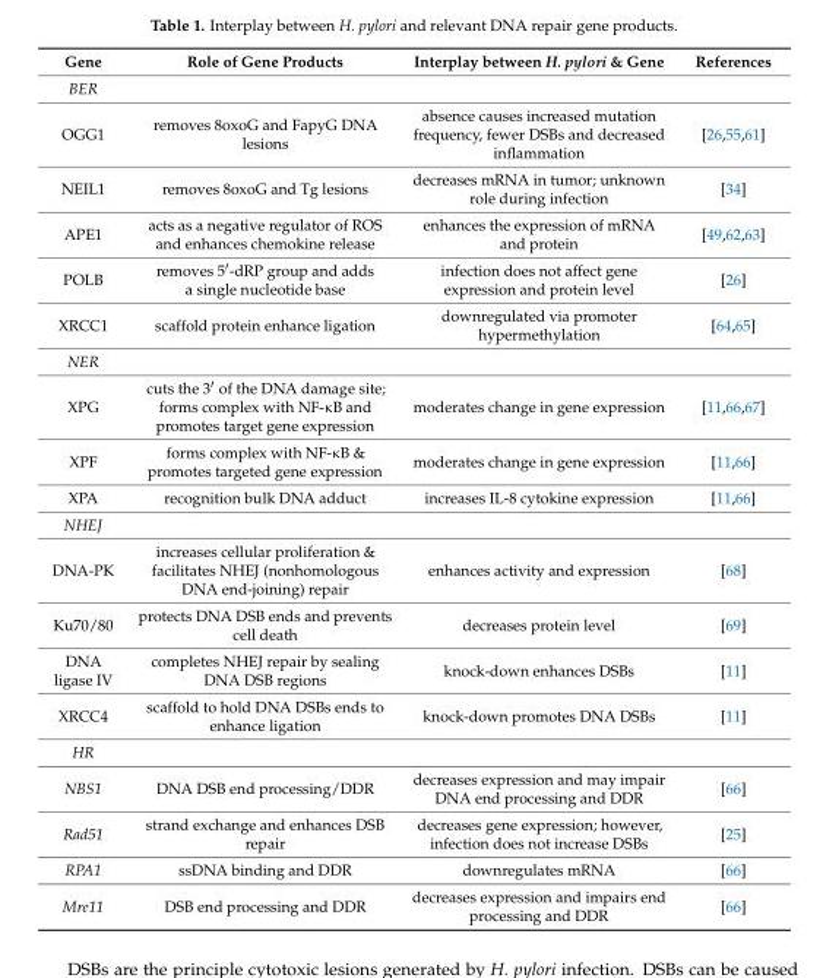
<table><thead><tr><td>Gene</td><td>Role of Gene Products</td><td>Interplay between H. pylori &amp; Gene</td><td>References</td></tr></thead><tbody><tr><td colspan="4">BER</td></tr><tr><td>OGG1</td><td>removes 8oxoG and FapyG DNA lesions</td><td>absence causes increased mutation frequency, fewer DSBs and decreased inflammation</td><td>[26,55,61]</td></tr><tr><td>NEIL1</td><td>removes 8oxoG and Tg lesions</td><td>decreases mRNA in tumor; unknown role during infection</td><td>[34]</td></tr><tr><td>APE1</td><td>acts as a negative regulator of ROS and enhances chemokine release</td><td>enhances the expression of mRNA and protein</td><td>[49,62,63]</td></tr><tr><td>POLB</td><td>removes 5′-dRP group and adds a single nucleotide base</td><td>infection does not affect gene expression and protein level</td><td>[26]</td></tr><tr><td>XRCC1</td><td>scaffold protein enhance ligation</td><td>downregulated via promoter hypermethylation</td><td>[64,65]</td></tr><tr><td colspan="4">NER</td></tr><tr><td>XPG</td><td>cuts the 3′ of the DNA damage site; forms complex with NF-κB and promotes target gene expression</td><td>moderates change in gene expression</td><td>[11,66,67]</td></tr><tr><td>XPF</td><td>forms complex with NF-κB &amp; promotes targeted gene expression</td><td>moderates change in gene expression</td><td>[11,66]</td></tr><tr><td>XPA</td><td>recognition bulk DNA adduct</td><td>increases IL-8 cytokine expression</td><td>[11,66]</td></tr><tr><td colspan="4">NHEJ</td></tr><tr><td>DNA-PK</td><td>increases cellular proliferation &amp; facilitates NHEJ (nonhomologous DNA end-joining) repair</td><td>enhances activity and expression</td><td>[68]</td></tr><tr><td>Ku70/80</td><td>protects DNA DSB ends and prevents cell death</td><td>decreases protein level</td><td>[69]</td></tr><tr><td>DNA ligase IV</td><td>completes NHEJ repair by sealing DNA DSB regions</td><td>knock-down enhances DSBs</td><td>[11]</td></tr><tr><td>XRCC4</td><td>scaffold to hold DNA DSBs ends to enhance ligation</td><td>knock-down promotes DNA DSBs</td><td>[11]</td></tr><tr><td colspan="4">HR</td></tr><tr><td>NBS1</td><td>DNA DSB end processing/DDR</td><td>decreases expression and may impair DNA end processing and DDR</td><td>[66]</td></tr><tr><td>Rad51</td><td>strand exchange and enhances DSB repair</td><td>decreases gene expression; however, infection does not increase DSBs</td><td>[25]</td></tr><tr><td>RPA1</td><td>ssDNA binding and DDR</td><td>downregulates mRNA</td><td>[66]</td></tr><tr><td>Mre11</td><td>DSB end processing and DDR</td><td>decreases expression and impairs end processing and DDR</td><td>[66]</td></tr></tbody></table>